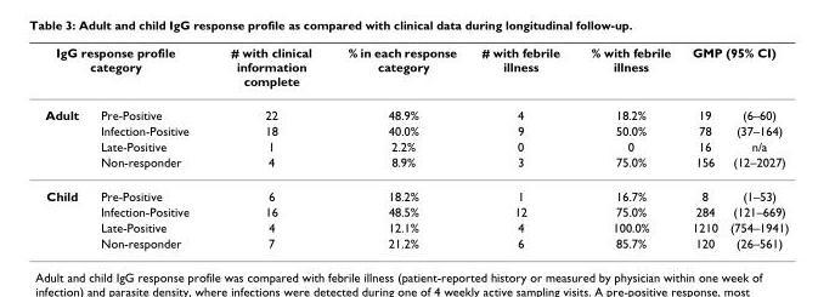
<table><thead><tr><td colspan="2">IgG response profile category</td><td rowspan="2"># with clinical information complete 22</td><td rowspan="2">% in each response category 48.9%</td><td rowspan="2"># with febrile illness 4</td><td rowspan="2">% with febrile illness 18.2%</td><td colspan="2">GMP (95% CI)</td></tr><tr><td>Adult</td><td>Pre-Positive</td><td>19</td><td>(6–60)</td></tr></thead><tbody><tr><td></td><td>Infection-Positive</td><td>18</td><td>40.0%</td><td>9</td><td>50.0%</td><td>78</td><td>(37–164)</td></tr><tr><td></td><td>Late-Positive</td><td>1</td><td>2.2%</td><td>0</td><td>0</td><td>16</td><td>n/a</td></tr><tr><td></td><td>Non-responder</td><td>4</td><td>8.9%</td><td>3</td><td>75.0%</td><td>156</td><td>(12–2027)</td></tr><tr><td rowspan="4">Child</td><td>Pre-Positive</td><td>6</td><td>18.2%</td><td>1</td><td>16.7%</td><td>8</td><td>(1–53)</td></tr><tr><td>Infection-Positive</td><td>16</td><td>48.5%</td><td>12</td><td>75.0%</td><td>284</td><td>(121–669)</td></tr><tr><td>Late-Positive</td><td>4</td><td>12.1%</td><td>4</td><td>100.0%</td><td>1210</td><td>(754–1941)</td></tr><tr><td>Non-responder</td><td>7</td><td>21.2%</td><td>6</td><td>85.7%</td><td>120</td><td>(26–561)</td></tr></tbody></table>